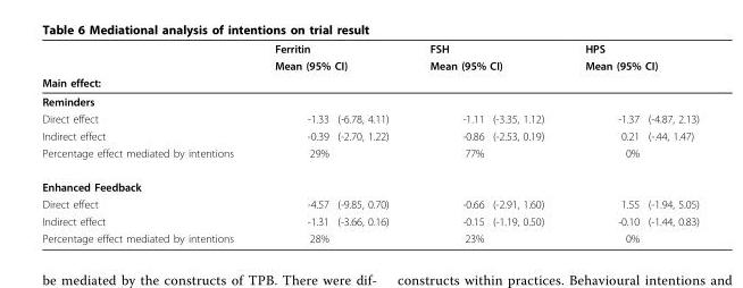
<table><thead><tr><td rowspan="3">Main effect:</td><td rowspan="2" colspan="2">Ferritin Mean (95% CI)</td><td rowspan="2" colspan="2">FSH Mean (95% CI)</td><td rowspan="2" colspan="2">HPS Mean (95% CI)</td></tr><tr></tr><tr><td></td><td></td><td></td><td></td><td></td><td></td></tr></thead><tbody><tr><td colspan="7">Reminders</td></tr><tr><td>Direct effect</td><td>-1.33</td><td>(-6.78, 4.11)</td><td>-1.11</td><td>(-3.35, 1.12)</td><td>-1.37</td><td>(-4.87, 2.13)</td></tr><tr><td>Indirect effect</td><td>-0.39</td><td>(-2.70, 1.22)</td><td>-0.86</td><td>(-2.53, 0.19)</td><td>0.21</td><td>(-.44, 1.47)</td></tr><tr><td>Percentage effect mediated by intentions</td><td>29%</td><td></td><td>77%</td><td></td><td>0%</td><td></td></tr><tr><td colspan="7">Enhanced Feedback</td></tr><tr><td>Direct effect</td><td>-4.57</td><td>(-9.85, 0.70)</td><td>-0.66</td><td>(-2.91, 1.60)</td><td>1.55</td><td>(-1.94, 5.05)</td></tr><tr><td>Indirect effect</td><td>-1.31</td><td>(-3.66, 0.16)</td><td>-0.15</td><td>(-1.19, 0.50)</td><td>-0.10</td><td>(-1.44, 0.83)</td></tr><tr><td>Percentage effect mediated by intentions</td><td>28%</td><td></td><td>23%</td><td></td><td>0%</td><td></td></tr></tbody></table>